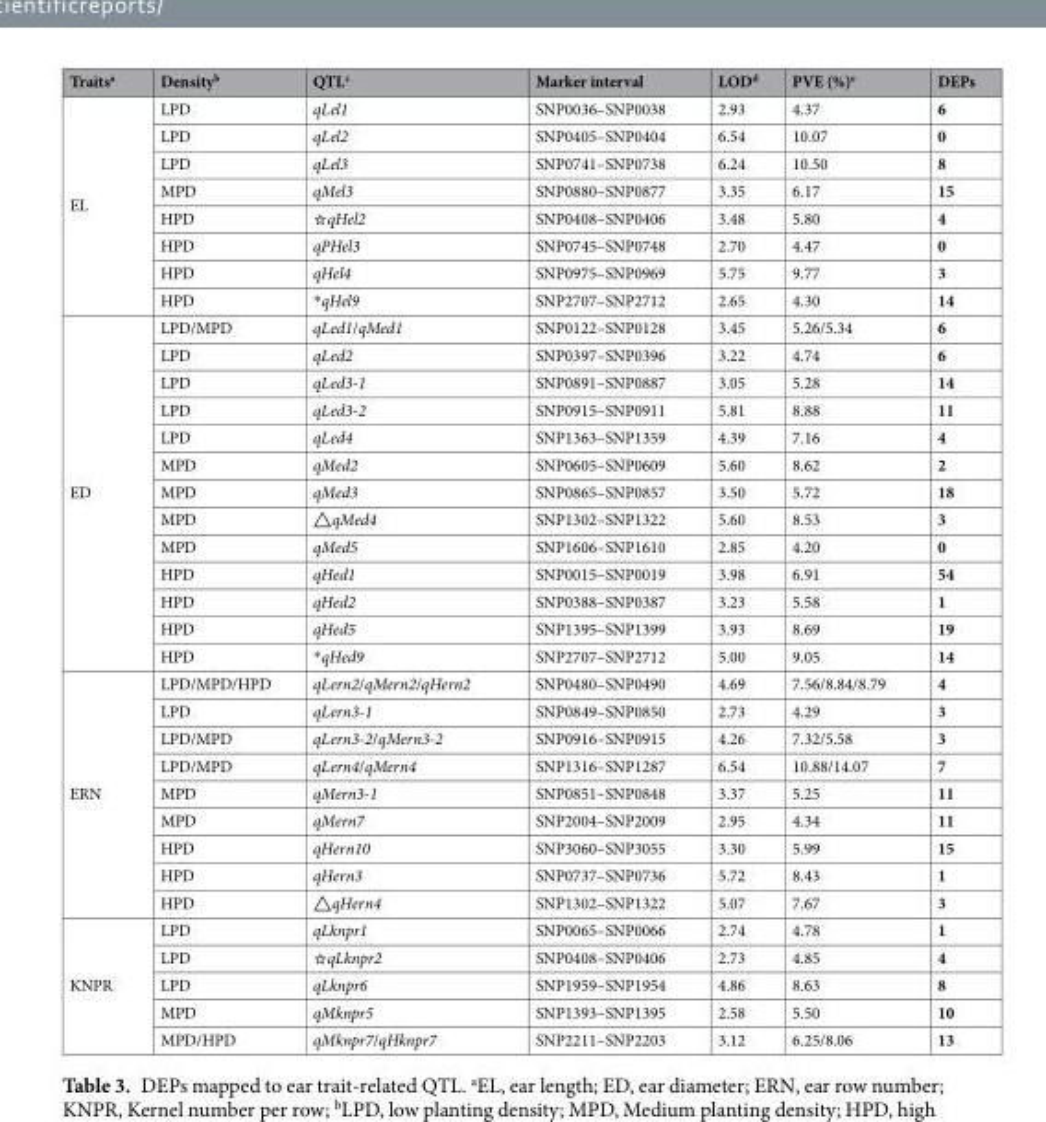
<table><thead><tr><td>Traits<sup>a</sup></td><td>Density<sup>b</sup></td><td>QTL<sup>c</sup></td><td>Marker interval</td><td>LOD<sup>d</sup></td><td>PVE (%)<sup>e</sup></td><td>DEPs</td></tr></thead><tbody><tr><td rowspan="8">EL</td><td>LPD</td><td>qLel1</td><td>SNP0036–SNP0038</td><td>2.93</td><td>4.37</td><td>6</td></tr><tr><td>LPD</td><td>qLel2</td><td>SNP0405–SNP0404</td><td>6.54</td><td>10.07</td><td>0</td></tr><tr><td>LPD</td><td>qLel3</td><td>SNP0741–SNP0738</td><td>6.24</td><td>10.50</td><td>8</td></tr><tr><td>MPD</td><td>qMel3</td><td>SNP0880–SNP0877</td><td>3.35</td><td>6.17</td><td>15</td></tr><tr><td>HPD</td><td>☆qHel2</td><td>SNP0408–SNP0406</td><td>3.48</td><td>5.80</td><td>4</td></tr><tr><td>HPD</td><td>qPHel3</td><td>SNP0745–SNP0748</td><td>2.70</td><td>4.47</td><td>0</td></tr><tr><td>HPD</td><td>qHel4</td><td>SNP0975–SNP0969</td><td>5.75</td><td>9.77</td><td>3</td></tr><tr><td>HPD</td><td>*qHel9</td><td>SNP2707–SNP2712</td><td>2.65</td><td>4.30</td><td>14</td></tr><tr><td rowspan="13">ED</td><td>LPD/MPD</td><td>qLed1/qMed1</td><td>SNP0122–SNP0128</td><td>3.45</td><td>5.26/5.34</td><td>6</td></tr><tr><td>LPD</td><td>qLed2</td><td>SNP0397–SNP0396</td><td>3.22</td><td>4.74</td><td>6</td></tr><tr><td>LPD</td><td>qLed3-1</td><td>SNP0891–SNP0887</td><td>3.05</td><td>5.28</td><td>14</td></tr><tr><td>LPD</td><td>qLed3-2</td><td>SNP0915–SNP0911</td><td>5.81</td><td>8.88</td><td>11</td></tr><tr><td>LPD</td><td>qLed4</td><td>SNP1363–SNP1359</td><td>4.39</td><td>7.16</td><td>4</td></tr><tr><td>MPD</td><td>qMed2</td><td>SNP0605–SNP0609</td><td>5.60</td><td>8.62</td><td>2</td></tr><tr><td>MPD</td><td>qMed3</td><td>SNP0865–SNP0857</td><td>3.50</td><td>5.72</td><td>18</td></tr><tr><td>MPD</td><td>△qMed4</td><td>SNP1302–SNP1322</td><td>5.60</td><td>8.53</td><td>3</td></tr><tr><td>MPD</td><td>qMed5</td><td>SNP1606–SNP1610</td><td>2.85</td><td>4.20</td><td>0</td></tr><tr><td>HPD</td><td>qHed1</td><td>SNP0015–SNP0019</td><td>3.98</td><td>6.91</td><td>54</td></tr><tr><td>HPD</td><td>qHed2</td><td>SNP0388–SNP0387</td><td>3.23</td><td>5.58</td><td>1</td></tr><tr><td>HPD</td><td>qHed5</td><td>SNP1395–SNP1399</td><td>3.93</td><td>8.69</td><td>19</td></tr><tr><td>HPD</td><td>*qHed9</td><td>SNP2707–SNP2712</td><td>5.00</td><td>9.05</td><td>14</td></tr><tr><td rowspan="9">ERN</td><td>LPD/MPD/HPD</td><td>qLern2/qMern2/qHern2</td><td>SNP0480–SNP0490</td><td>4.69</td><td>7.56/8.84/8.79</td><td>4</td></tr><tr><td>LPD</td><td>qLern3-1</td><td>SNP0849–SNP0850</td><td>2.73</td><td>4.29</td><td>3</td></tr><tr><td>LPD/MPD</td><td>qLern3-2/qMern3-2</td><td>SNP0916–SNP0915</td><td>4.26</td><td>7.32/5.58</td><td>3</td></tr><tr><td>LPD/MPD</td><td>qLern4/qMern4</td><td>SNP1316–SNP1287</td><td>6.54</td><td>10.88/14.07</td><td>7</td></tr><tr><td>MPD</td><td>qMern3-1</td><td>SNP0851–SNP0848</td><td>3.37</td><td>5.25</td><td>11</td></tr><tr><td>MPD</td><td>qMern7</td><td>SNP2004–SNP2009</td><td>2.95</td><td>4.34</td><td>11</td></tr><tr><td>HPD</td><td>qHern10</td><td>SNP3060–SNP3055</td><td>3.30</td><td>5.99</td><td>15</td></tr><tr><td>HPD</td><td>qHern3</td><td>SNP0737–SNP0736</td><td>5.72</td><td>8.43</td><td>1</td></tr><tr><td>HPD</td><td>△qHern4</td><td>SNP1302–SNP1322</td><td>5.07</td><td>7.67</td><td>3</td></tr><tr><td rowspan="5">KNPR</td><td>LPD</td><td>qLknpr1</td><td>SNP0065–SNP0066</td><td>2.74</td><td>4.78</td><td>1</td></tr><tr><td>LPD</td><td>☆qLknpr2</td><td>SNP0408–SNP0406</td><td>2.73</td><td>4.85</td><td>4</td></tr><tr><td>LPD</td><td>qLknpr6</td><td>SNP1959–SNP1954</td><td>4.86</td><td>8.63</td><td>8</td></tr><tr><td>MPD</td><td>qMknpr5</td><td>SNP1393–SNP1395</td><td>2.58</td><td>5.50</td><td>10</td></tr><tr><td>MPD/HPD</td><td>qMknpr7/qHknpr7</td><td>SNP2211–SNP2203</td><td>3.12</td><td>6.25/8.06</td><td>13</td></tr></tbody></table>